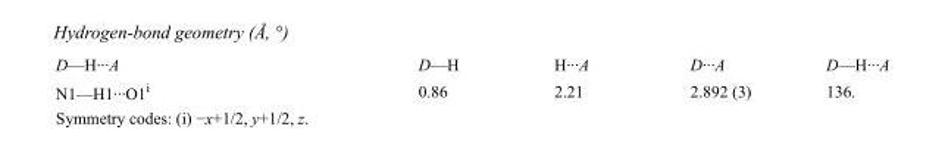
<table><tbody><tr><td>D—H···A</td><td>D—H</td><td>H···A</td><td>D···A</td><td>D—H···A</td></tr><tr><td>N1—H1···O1<sup>i</sup></td><td>0.86</td><td>2.21</td><td>2.892 (3)</td><td>136.</td></tr></tbody></table>